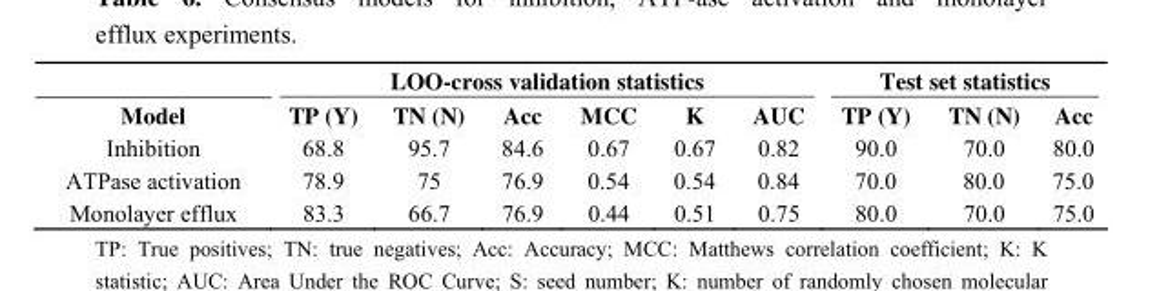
<table><thead><tr><td rowspan="2">Model</td><td colspan="6">LOO-cross validation statistics</td><td colspan="3">Test set statistics</td></tr><tr><td>TP (Y)</td><td>TN (N)</td><td>Acc</td><td>MCC</td><td>K</td><td>AUC</td><td>TP (Y)</td><td>TN (N)</td><td>Acc</td></tr></thead><tbody><tr><td>Inhibition</td><td>68.8</td><td>95.7</td><td>84.6</td><td>0.67</td><td>0.67</td><td>0.82</td><td>90.0</td><td>70.0</td><td>80.0</td></tr><tr><td>ATPase activation</td><td>78.9</td><td>75</td><td>76.9</td><td>0.54</td><td>0.54</td><td>0.84</td><td>70.0</td><td>80.0</td><td>75.0</td></tr><tr><td>Monolayer efflux</td><td>83.3</td><td>66.7</td><td>76.9</td><td>0.44</td><td>0.51</td><td>0.75</td><td>80.0</td><td>70.0</td><td>75.0</td></tr></tbody></table>